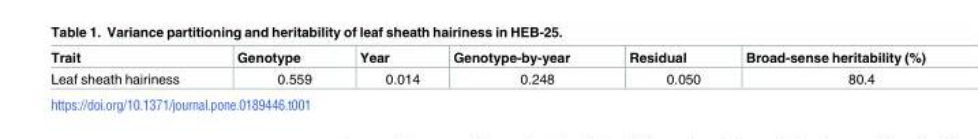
<table><thead><tr><td>Trait</td><td>Genotype</td><td>Year</td><td>Genotype-by-year</td><td>Residual</td><td>Broad-sense heritability (%)</td></tr></thead><tbody><tr><td>Leaf sheath hairiness</td><td>0.559</td><td>0.014</td><td>0.248</td><td>0.050</td><td>80.4</td></tr></tbody></table>